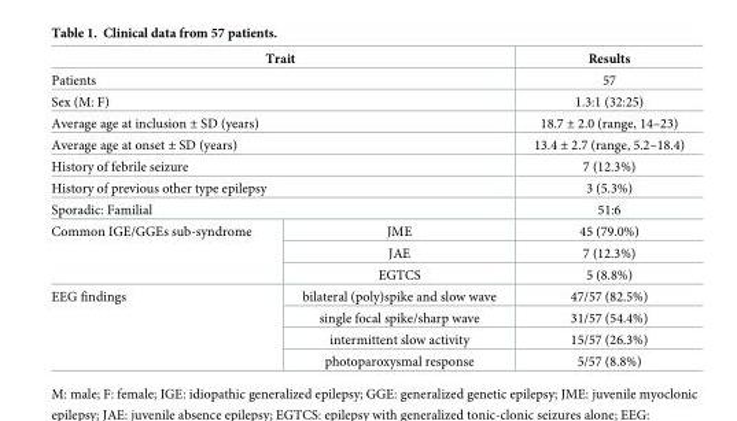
<table><thead><tr><td colspan="2">Trait</td><td>Results</td></tr></thead><tbody><tr><td colspan="2">Patients</td><td>57</td></tr><tr><td colspan="2">Sex (M: F)</td><td>1.3:1 (32:25)</td></tr><tr><td colspan="2">Average age at inclusion ± SD (years)</td><td>18.7 ± 2.0 (range, 14–23)</td></tr><tr><td colspan="2">Average age at onset ± SD (years)</td><td>13.4 ± 2.7 (range, 5.2–18.4)</td></tr><tr><td colspan="2">History of febrile seizure</td><td>7 (12.3%)</td></tr><tr><td colspan="2">History of previous other type epilepsy</td><td>3 (5.3%)</td></tr><tr><td colspan="2">Sporadic: Familial</td><td>51:6</td></tr><tr><td rowspan="3">Common IGE/GGEs sub-syndrome</td><td>JME</td><td>45 (79.0%)</td></tr><tr><td>JAE</td><td>7 (12.3%)</td></tr><tr><td>EGTCS</td><td>5 (8.8%)</td></tr><tr><td rowspan="4">EEG findings</td><td>bilateral (poly)spike and slow wave</td><td>47/57 (82.5%)</td></tr><tr><td>single focal spike/sharp wave</td><td>31/57 (54.4%)</td></tr><tr><td>intermittent slow activity</td><td>15/57 (26.3%)</td></tr><tr><td>photoparoxysmal response</td><td>5/57 (8.8%)</td></tr></tbody></table>